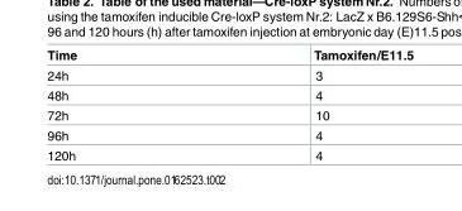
<table><thead><tr><td>Time</td><td>Tamoxifen/E11.5</td></tr></thead><tbody><tr><td>24h</td><td>3</td></tr><tr><td>48h</td><td>4</td></tr><tr><td>72h</td><td>10</td></tr><tr><td>96h</td><td>4</td></tr><tr><td>120h</td><td>4</td></tr></tbody></table>